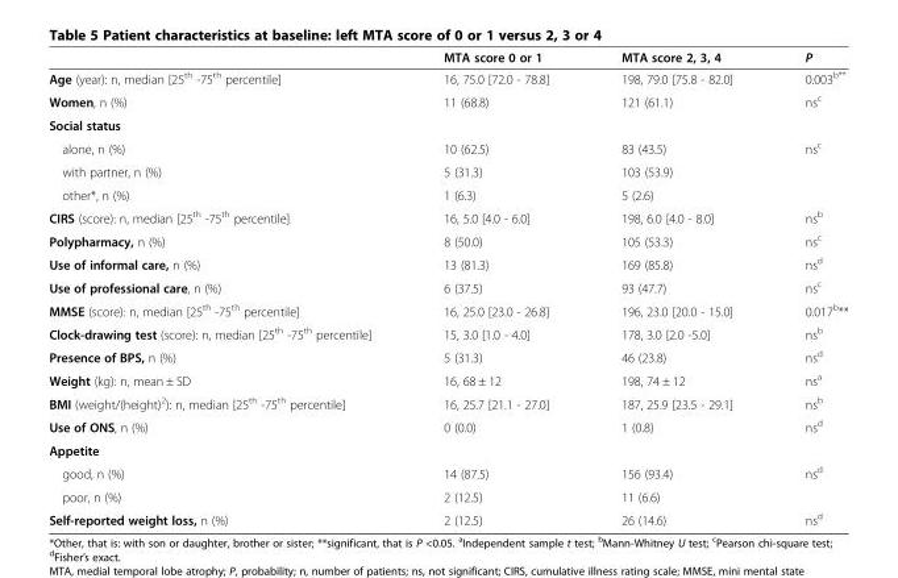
<table><thead><tr><td></td><td>MTA score 0 or 1</td><td>MTA score 2, 3, 4</td><td>P</td></tr></thead><tbody><tr><td>Age (year): n, median [25<sup>th</sup> -75<sup>th</sup> percentile]</td><td>16, 75.0 [72.0 - 78.8]</td><td>198, 79.0 [75.8 - 82.0]</td><td>0.003<sup>b**</sup></td></tr><tr><td>Women, n (%)</td><td>11 (68.8)</td><td>121 (61.1)</td><td>ns<sup>c</sup></td></tr><tr><td colspan="4">Social status</td></tr><tr><td>alone, n (%)</td><td>10 (62.5)</td><td>83 (43.5)</td><td rowspan="3">ns<sup>c</sup></td></tr><tr><td>with partner, n (%)</td><td>5 (31.3)</td><td>103 (53.9)</td></tr><tr><td>other*, n (%)</td><td>1 (6.3)</td><td>5 (2.6)</td></tr><tr><td>CIRS (score): n, median [25<sup>th</sup> -75<sup>th</sup> percentile]</td><td>16, 5.0 [4.0 - 6.0]</td><td>198, 6.0 [4.0 - 8.0]</td><td>ns<sup>b</sup></td></tr><tr><td>Polypharmacy, n (%)</td><td>8 (50.0)</td><td>105 (53.3)</td><td>ns<sup>c</sup></td></tr><tr><td>Use of informal care, n (%)</td><td>13 (81.3)</td><td>169 (85.8)</td><td>ns<sup>d</sup></td></tr><tr><td>Use of professional care, n (%)</td><td>6 (37.5)</td><td>93 (47.7)</td><td>ns<sup>c</sup></td></tr><tr><td>MMSE (score): n, median [25<sup>th</sup> -75<sup>th</sup> percentile]</td><td>16, 25.0 [23.0 - 26.8]</td><td>196, 23.0 [20.0 - 15.0]</td><td>0.017<sup>b</sup>**</td></tr><tr><td>Clock-drawing test (score): n, median [25<sup>th</sup> -75<sup>th</sup> percentile]</td><td>15, 3.0 [1.0 - 4.0]</td><td>178, 3.0 [2.0 -5.0]</td><td>ns<sup>b</sup></td></tr><tr><td>Presence of BPS, n (%)</td><td>5 (31.3)</td><td>46 (23.8)</td><td>ns<sup>d</sup></td></tr><tr><td>Weight (kg): n, mean ± SD</td><td>16, 68 ± 12</td><td>198, 74 ± 12</td><td>ns<sup>a</sup></td></tr><tr><td>BMI (weight/(height)<sup>2</sup>): n, median [25<sup>th</sup> -75<sup>th</sup> percentile]</td><td>16, 25.7 [21.1 - 27.0]</td><td>187, 25.9 [23.5 - 29.1]</td><td>ns<sup>b</sup></td></tr><tr><td>Use of ONS, n (%)</td><td>0 (0.0)</td><td>1 (0.8)</td><td>ns<sup>d</sup></td></tr><tr><td colspan="4">Appetite</td></tr><tr><td>good, n (%)</td><td>14 (87.5)</td><td>156 (93.4)</td><td rowspan="2">ns<sup>d</sup></td></tr><tr><td>poor, n (%)</td><td>2 (12.5)</td><td>11 (6.6)</td></tr><tr><td>Self-reported weight loss, n (%)</td><td>2 (12.5)</td><td>26 (14.6)</td><td>ns<sup>d</sup></td></tr></tbody></table>